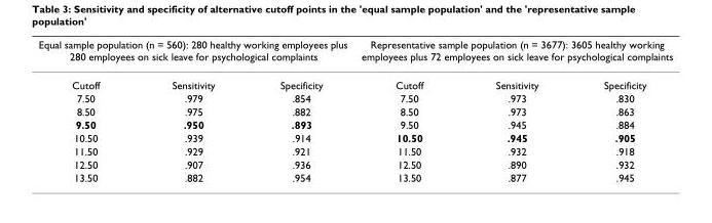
<table><thead><tr><td colspan="3">Equal sample population (n = 560): 280 healthy working employees plus 280 employees on sick leave for psychological complaints</td><td colspan="3">Representative sample population (n = 3677): 3605 healthy working employees plus 72 employees on sick leave for psychological complaints</td></tr><tr><td>Cutoff</td><td>Sensitivity</td><td>Specificity</td><td>Cutoff</td><td>Sensitivity</td><td>Specificity</td></tr></thead><tbody><tr><td>7.50</td><td>.979</td><td>.854</td><td>7.50</td><td>.973</td><td>.830</td></tr><tr><td>8.50</td><td>.975</td><td>.882</td><td>8.50</td><td>.973</td><td>.863</td></tr><tr><td>9.50</td><td>.950</td><td>.893</td><td>9.50</td><td>.945</td><td>.884</td></tr><tr><td>10.50</td><td>.939</td><td>.914</td><td>10.50</td><td>.945</td><td>.905</td></tr><tr><td>11.50</td><td>.929</td><td>.921</td><td>11.50</td><td>.932</td><td>.918</td></tr><tr><td>12.50</td><td>.907</td><td>.936</td><td>12.50</td><td>.890</td><td>.932</td></tr><tr><td>13.50</td><td>.882</td><td>.954</td><td>13.50</td><td>.877</td><td>.945</td></tr></tbody></table>